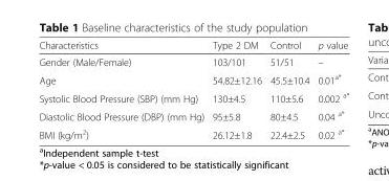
<table><thead><tr><td>Characteristics</td><td>Type 2 DM</td><td>Control</td><td>p value</td></tr></thead><tbody><tr><td>Gender (Male/Female)</td><td>103/101</td><td>51/51</td><td>–</td></tr><tr><td>Age</td><td>54.82±12.16</td><td>45.5±10.4</td><td>0.01<sup>a*</sup></td></tr><tr><td>Systolic Blood Pressure (SBP) (mm Hg)</td><td>130±4.5</td><td>110±5.6</td><td>0.002 <sup>a*</sup></td></tr><tr><td>Diastolic Blood Pressure (DBP) (mm Hg)</td><td>95±5.8</td><td>80±4.5</td><td>0.04 <sup>a*</sup></td></tr><tr><td>BMI (kg/m<sup>2</sup>)</td><td>26.12±1.8</td><td>22.4±2.5</td><td>0.02 <sup>a*</sup></td></tr></tbody></table>